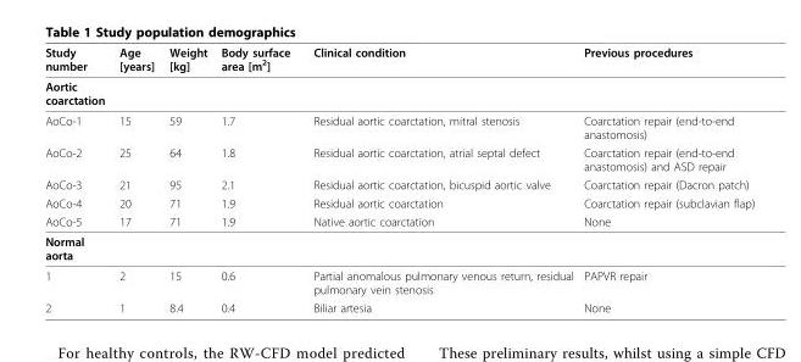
<table><thead><tr><td>Study number</td><td>Age [years]</td><td>Weight [kg]</td><td>Body surface area [m<sup>2</sup>]</td><td>Clinical condition</td><td>Previous procedures</td></tr></thead><tbody><tr><td colspan="6">Aortic coarctation</td></tr><tr><td>AoCo-1</td><td>15</td><td>59</td><td>1.7</td><td>Residual aortic coarctation, mitral stenosis</td><td>Coarctation repair (end-to-end anastomosis)</td></tr><tr><td>AoCo-2</td><td>25</td><td>64</td><td>1.8</td><td>Residual aortic coarctation, atrial septal defect</td><td>Coarctation repair (end-to-end anastomosis) and ASD repair</td></tr><tr><td>AoCo-3</td><td>21</td><td>95</td><td>2.1</td><td>Residual aortic coarctation, bicuspid aortic valve</td><td>Coarctation repair (Dacron patch)</td></tr><tr><td>AoCo-4</td><td>20</td><td>71</td><td>1.9</td><td>Residual aortic coarctation</td><td>Coarctation repair (subclavian flap)</td></tr><tr><td>AoCo-5</td><td>17</td><td>71</td><td>1.9</td><td>Native aortic coarctation</td><td>None</td></tr><tr><td colspan="6">Normal aorta</td></tr><tr><td>1</td><td>2</td><td>15</td><td>0.6</td><td>Partial anomalous pulmonary venous return, residual pulmonary vein stenosis</td><td>PAPVR repair</td></tr><tr><td>2</td><td>1</td><td>8.4</td><td>0.4</td><td>Biliar artesia</td><td>None</td></tr></tbody></table>